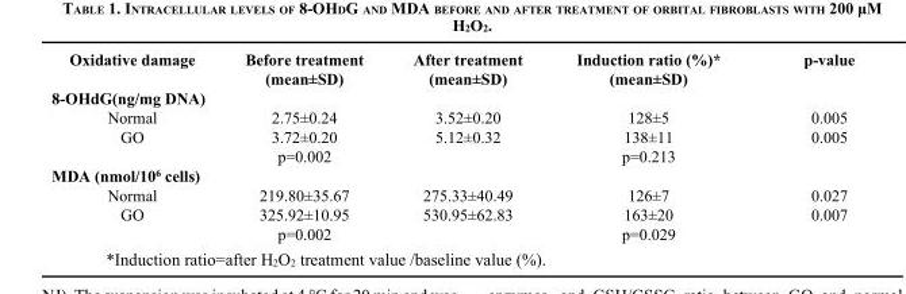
<table><thead><tr><td>Oxidative damage</td><td>Before treatment (mean±SD)</td><td>After treatment (mean±SD)</td><td>Induction ratio (%)* (mean±SD)</td><td>p-value</td></tr></thead><tbody><tr><td colspan="5">8-OHdG(ng/mg DNA)</td></tr><tr><td>Normal</td><td>2.75±0.24</td><td>3.52±0.20</td><td>128±5</td><td>0.005</td></tr><tr><td rowspan="2">GO</td><td>3.72±0.20</td><td>5.12±0.32</td><td>138±11</td><td>0.005</td></tr><tr><td>p=0.002</td><td></td><td>p=0.213</td><td></td></tr><tr><td colspan="5">MDA (nmol/10<sup>6</sup> cells)</td></tr><tr><td>Normal</td><td>219.80±35.67</td><td>275.33±40.49</td><td>126±7</td><td>0.027</td></tr><tr><td rowspan="2">GO</td><td>325.92±10.95</td><td>530.95±62.83</td><td>163±20</td><td>0.007</td></tr><tr><td>p=0.002</td><td></td><td>p=0.029</td><td></td></tr></tbody></table>